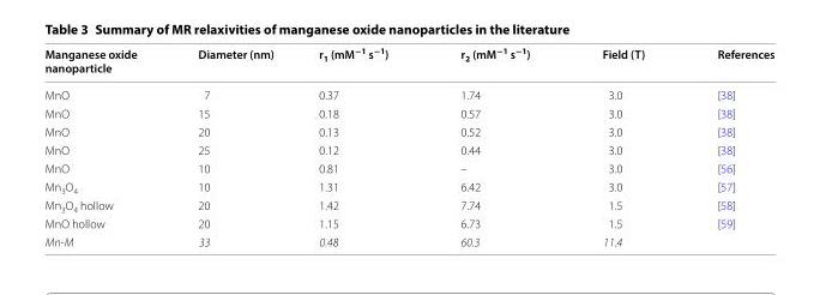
<table><thead><tr><td>Manganese oxide nanoparticle</td><td>Diameter (nm)</td><td>r<sub>1</sub> (mM<sup>−1</sup> s<sup>−1</sup>)</td><td>r<sub>2</sub> (mM<sup>−1</sup> s<sup>−1</sup>)</td><td>Field (T)</td><td>References</td></tr></thead><tbody><tr><td>MnO</td><td>7</td><td>0.37</td><td>1.74</td><td>3.0</td><td>[38]</td></tr><tr><td>MnO</td><td>15</td><td>0.18</td><td>0.57</td><td>3.0</td><td>[38]</td></tr><tr><td>MnO</td><td>20</td><td>0.13</td><td>0.52</td><td>3.0</td><td>[38]</td></tr><tr><td>MnO</td><td>25</td><td>0.12</td><td>0.44</td><td>3.0</td><td>[38]</td></tr><tr><td>MnO</td><td>10</td><td>0.81</td><td>–</td><td>3.0</td><td>[56]</td></tr><tr><td>Mn<sub>3</sub>O<sub>4</sub></td><td>10</td><td>1.31</td><td>6.42</td><td>3.0</td><td>[57]</td></tr><tr><td>Mn<sub>3</sub>O<sub>4</sub> hollow</td><td>20</td><td>1.42</td><td>7.74</td><td>1.5</td><td>[58]</td></tr><tr><td>MnO hollow</td><td>20</td><td>1.15</td><td>6.73</td><td>1.5</td><td>[59]</td></tr><tr><td>Mn-M</td><td>33</td><td>0.48</td><td>60.3</td><td>11.4</td><td></td></tr></tbody></table>